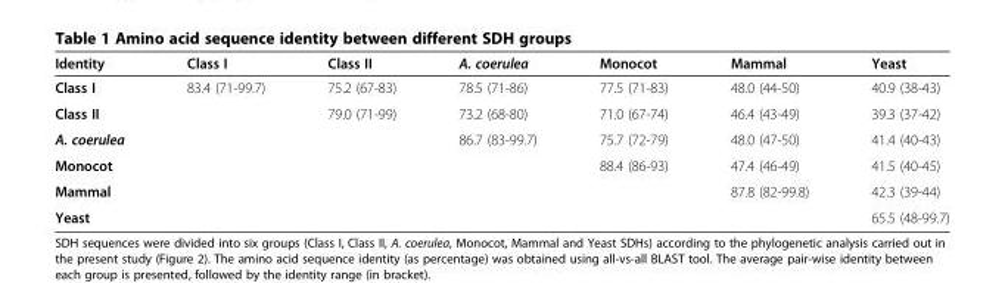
<table><thead><tr><td>Identity</td><td>Class I</td><td>Class II</td><td>A. coerulea</td><td>Monocot</td><td>Mammal</td><td>Yeast</td></tr></thead><tbody><tr><td>Class I</td><td>83.4 (71-99.7)</td><td>75.2 (67-83)</td><td>78.5 (71-86)</td><td>77.5 (71-83)</td><td>48.0 (44-50)</td><td>40.9 (38-43)</td></tr><tr><td>Class II</td><td></td><td>79.0 (71-99)</td><td>73.2 (68-80)</td><td>71.0 (67-74)</td><td>46.4 (43-49)</td><td>39.3 (37-42)</td></tr><tr><td>A. coerulea</td><td></td><td></td><td>86.7 (83-99.7)</td><td>75.7 (72-79)</td><td>48.0 (47-50)</td><td>41.4 (40-43)</td></tr><tr><td>Monocot</td><td></td><td></td><td></td><td>88.4 (86-93)</td><td>47.4 (46-49)</td><td>41.5 (40-45)</td></tr><tr><td>Mammal</td><td></td><td></td><td></td><td></td><td>87.8 (82-99.8)</td><td>42.3 (39-44)</td></tr><tr><td>Yeast</td><td></td><td></td><td></td><td></td><td></td><td>65.5 (48-99.7)</td></tr></tbody></table>